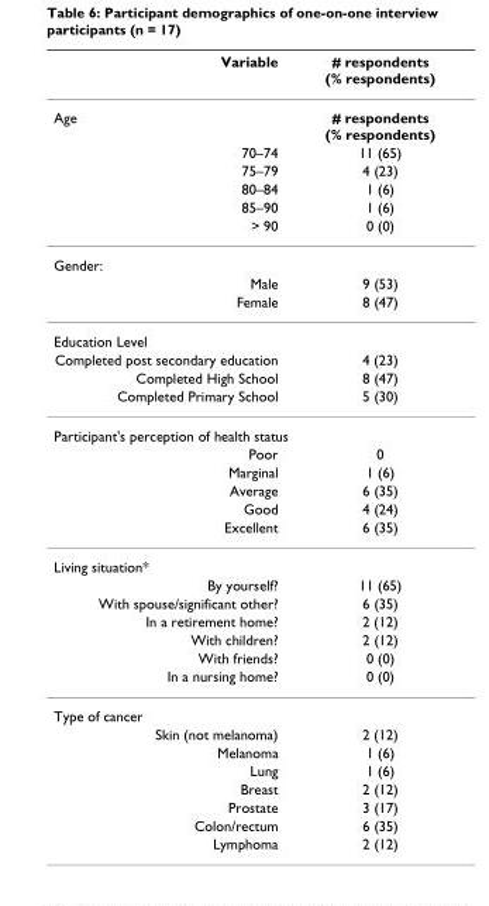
<table><thead><tr><td>Variable</td><td># respondents (% respondents)</td></tr></thead><tbody><tr><td>Age</td><td># respondents (% respondents)</td></tr><tr><td>70–74</td><td>11 (65)</td></tr><tr><td>75–79</td><td>4 (23)</td></tr><tr><td>80–84</td><td>1 (6)</td></tr><tr><td>85–90</td><td>1 (6)</td></tr><tr><td>&gt; 90</td><td>0 (0)</td></tr><tr><td colspan="2">Gender:</td></tr><tr><td>Male</td><td>9 (53)</td></tr><tr><td>Female</td><td>8 (47)</td></tr><tr><td colspan="2">Education Level</td></tr><tr><td>Completed post secondary education</td><td>4 (23)</td></tr><tr><td>Completed High School</td><td>8 (47)</td></tr><tr><td>Completed Primary School</td><td>5 (30)</td></tr><tr><td colspan="2">Participant&#x27;s perception of health status</td></tr><tr><td>Poor</td><td>0</td></tr><tr><td>Marginal</td><td>1 (6)</td></tr><tr><td>Average</td><td>6 (35)</td></tr><tr><td>Good</td><td>4 (24)</td></tr><tr><td>Excellent</td><td>6 (35)</td></tr><tr><td colspan="2">Living situation*</td></tr><tr><td>By yourself?</td><td>11 (65)</td></tr><tr><td>With spouse/significant other?</td><td>6 (35)</td></tr><tr><td>In a retirement home?</td><td>2 (12)</td></tr><tr><td>With children?</td><td>2 (12)</td></tr><tr><td>With friends?</td><td>0 (0)</td></tr><tr><td>In a nursing home?</td><td>0 (0)</td></tr><tr><td colspan="2">Type of cancer</td></tr><tr><td>Skin (not melanoma)</td><td>2 (12)</td></tr><tr><td>Melanoma</td><td>1 (6)</td></tr><tr><td>Lung</td><td>1 (6)</td></tr><tr><td>Breast</td><td>2 (12)</td></tr><tr><td>Prostate</td><td>3 (17)</td></tr><tr><td>Colon/rectum</td><td>6 (35)</td></tr><tr><td>Lymphoma</td><td>2 (12)</td></tr></tbody></table>